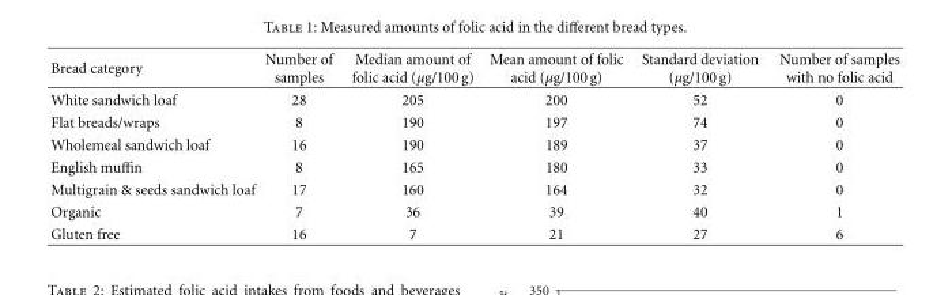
<table><thead><tr><td>Bread category</td><td>Number of samples</td><td>Median amount of folic acid (µg/100 g)</td><td>Mean amount of folic acid (µg/100 g)</td><td>Standard deviation (µg/100 g)</td><td>Number of samples with no folic acid</td></tr></thead><tbody><tr><td>White sandwich loaf</td><td>28</td><td>205</td><td>200</td><td>52</td><td>0</td></tr><tr><td>Flat breads/wraps</td><td>8</td><td>190</td><td>197</td><td>74</td><td>0</td></tr><tr><td>Wholemeal sandwich loaf</td><td>16</td><td>190</td><td>189</td><td>37</td><td>0</td></tr><tr><td>English muffin</td><td>8</td><td>165</td><td>180</td><td>33</td><td>0</td></tr><tr><td>Multigrain &amp; seeds sandwich loaf</td><td>17</td><td>160</td><td>164</td><td>32</td><td>0</td></tr><tr><td>Organic</td><td>7</td><td>36</td><td>39</td><td>40</td><td>1</td></tr><tr><td>Gluten free</td><td>16</td><td>7</td><td>21</td><td>27</td><td>6</td></tr></tbody></table>